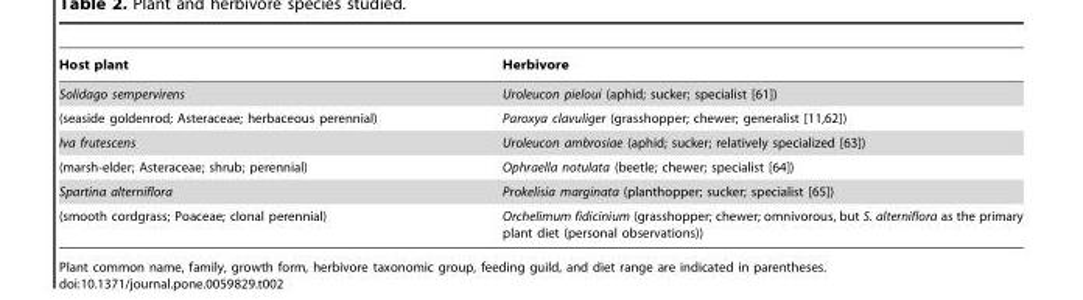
<table><thead><tr><td>Host plant</td><td>Herbivore</td></tr></thead><tbody><tr><td>Solidago sempervirens</td><td>Uroleucon pieloui (aphid; sucker; specialist [61])</td></tr><tr><td>(seaside goldenrod; Asteraceae; herbaceous perennial)</td><td>Paroxya clavuliger (grasshopper; chewer; generalist [11,62])</td></tr><tr><td>Iva frutescens</td><td>Uroleucon ambrosiae (aphid; sucker; relatively specialized [63])</td></tr><tr><td>(marsh-elder; Asteraceae; shrub; perennial)</td><td>Ophraella notulata (beetle; chewer; specialist [64])</td></tr><tr><td>Spartina alterniflora</td><td>Prokelisia marginata (planthopper; sucker; specialist [65])</td></tr><tr><td>(smooth cordgrass; Poaceae; clonal perennial)</td><td>Orchelimum fidicinium (grasshopper; chewer; omnivorous, but S. alterniflora as the primary plant diet (personal observations))</td></tr></tbody></table>